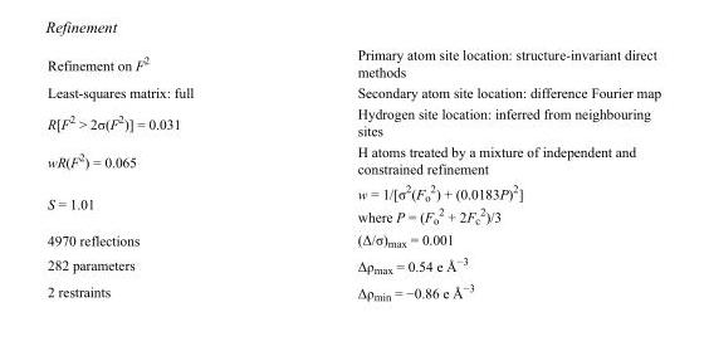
<table><tbody><tr><td>Refinement on F<sup>2</sup></td><td>Primary atom site location: structure-invariant direct methods</td></tr><tr><td>Least-squares matrix: full</td><td>Secondary atom site location: difference Fourier map</td></tr><tr><td>R[F<sup>2</sup> &gt; 2σ(F<sup>2</sup>)] = 0.031</td><td>Hydrogen site location: inferred from neighbouring sites</td></tr><tr><td>wR(F<sup>2</sup>) = 0.065</td><td>H atoms treated by a mixture of independent and constrained refinement</td></tr><tr><td>S = 1.01</td><td>w = 1/[σ<sup>2</sup>(F<sub>o</sub> <sup>2</sup>) + (0.0183P)<sup>2</sup>] where P = (F<sub>o</sub> <sup>2</sup> + 2F<sub>c</sub> <sup>2</sup>)/3</td></tr><tr><td>4970 reflections</td><td>(Δ/σ)<sub>max</sub> = 0.001</td></tr><tr><td>282 parameters</td><td>Δρ<sub>max</sub> = 0.54 e Å<sup>−3</sup></td></tr><tr><td>2 restraints</td><td>Δρ<sub>min</sub> = −0.86 e Å<sup>−3</sup></td></tr></tbody></table>